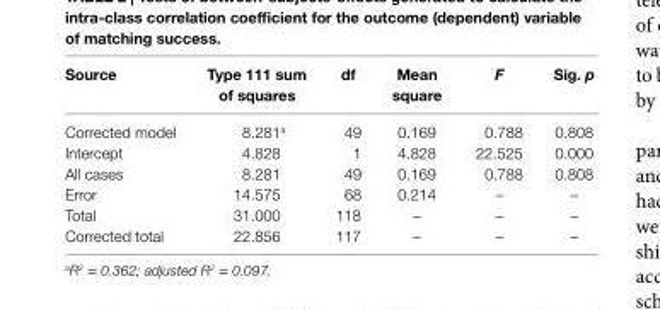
<table><thead><tr><td>source</td><td>Type 111 sum of squares</td><td>df</td><td>Mean square</td><td>F</td><td>sig. p</td></tr></thead><tbody><tr><td>Corrected model</td><td>8.281<sup>a</sup></td><td>49</td><td>0.169</td><td>0.788</td><td>0.808</td></tr><tr><td>Intercept</td><td>4.828</td><td>1</td><td>4.828</td><td>22.525</td><td>0.000</td></tr><tr><td>All cases</td><td>8.281</td><td>49</td><td>0.169</td><td>0.788</td><td>0.808</td></tr><tr><td>Error</td><td>14.575</td><td>68</td><td>0.214</td><td>–</td><td>–</td></tr><tr><td>Total</td><td>31.000</td><td>118</td><td>–</td><td>–</td><td>–</td></tr><tr><td>Corrected total</td><td>22.856</td><td>117</td><td>–</td><td>–</td><td>–</td></tr></tbody></table>